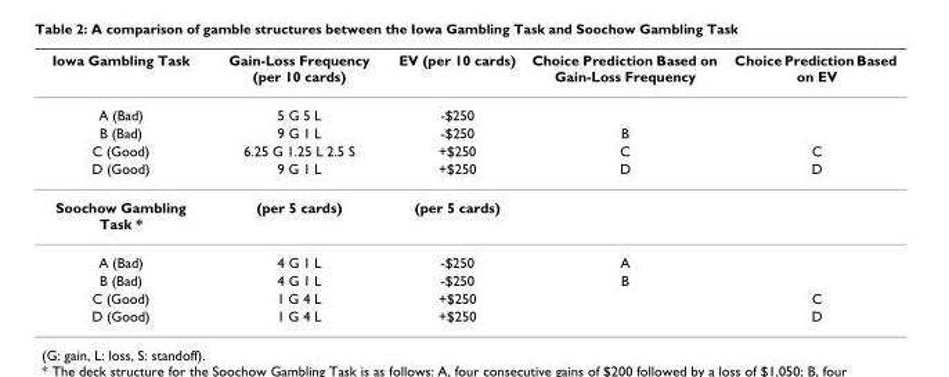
<table><thead><tr><td>Iowa Gambling Task</td><td>Gain-Loss Frequency (per 10 cards)</td><td>EV (per 10 cards)</td><td>Choice Prediction Based on Gain-Loss Frequency</td><td>Choice Prediction Based on EV</td></tr></thead><tbody><tr><td>A (Bad)</td><td>5 G 5 L</td><td>-$250</td><td></td><td></td></tr><tr><td>B (Bad)</td><td>9 G 1 L</td><td>-$250</td><td>B</td><td></td></tr><tr><td>C (Good)</td><td>6.25 G 1.25 L 2.5 S</td><td>+$250</td><td>C</td><td>C</td></tr><tr><td>D (Good)</td><td>9 G 1 L</td><td>+$250</td><td>D</td><td>D</td></tr><tr><td>Soochow Gambling Task *</td><td>(per 5 cards)</td><td>(per 5 cards)</td><td></td><td></td></tr><tr><td>A (Bad)</td><td>4 G 1 L</td><td>-$250</td><td>A</td><td></td></tr><tr><td>B (Bad)</td><td>4 G 1 L</td><td>-$250</td><td>B</td><td></td></tr><tr><td>C (Good)</td><td>1 G 4 L</td><td>+$250</td><td></td><td>C</td></tr><tr><td>D (Good)</td><td>1 G 4 L</td><td>+$250</td><td></td><td>D</td></tr></tbody></table>